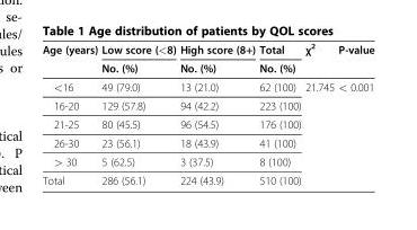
<table><thead><tr><td rowspan="2">Age (years)</td><td rowspan="2">Low score (&lt;8) No. (%)</td><td rowspan="2">High score (8+) No. (%)</td><td rowspan="2">Total No. (%)</td><td rowspan="2">χ<sup>2</sup></td><td rowspan="2">P-value</td></tr><tr></tr></thead><tbody><tr><td>&lt;16</td><td>49 (79.0)</td><td>13 (21.0)</td><td>62 (100)</td><td>21.745</td><td>&lt; 0.001</td></tr><tr><td>16-20</td><td>129 (57.8)</td><td>94 (42.2)</td><td>223 (100)</td><td></td><td></td></tr><tr><td>21-25</td><td>80 (45.5)</td><td>96 (54.5)</td><td>176 (100)</td><td></td><td></td></tr><tr><td>26-30</td><td>23 (56.1)</td><td>18 (43.9)</td><td>41 (100)</td><td></td><td></td></tr><tr><td>&gt; 30</td><td>5 (62.5)</td><td>3 (37.5)</td><td>8 (100)</td><td></td><td></td></tr><tr><td>Total</td><td>286 (56.1)</td><td>224 (43.9)</td><td>510 (100)</td><td></td><td></td></tr></tbody></table>